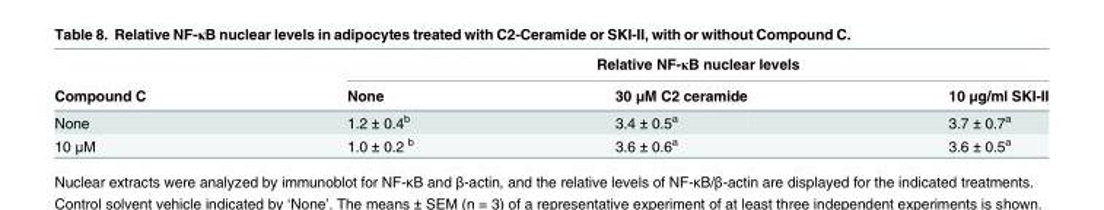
<table><thead><tr><td rowspan="2">Compound C</td><td colspan="3">Relative NF-κB nuclear levels</td></tr><tr><td>None</td><td>30 μM C2 ceramide</td><td>10 μg/ml SKI-II</td></tr></thead><tbody><tr><td>None</td><td>1.2 ± 0.4<sup>b</sup></td><td>3.4 ± 0.5<sup>a</sup></td><td>3.7 ± 0.7<sup>a</sup></td></tr><tr><td>10 μM</td><td>1.0 ± 0.2 <sup>b</sup></td><td>3.6 ± 0.6<sup>a</sup></td><td>3.6 ± 0.5<sup>a</sup></td></tr></tbody></table>